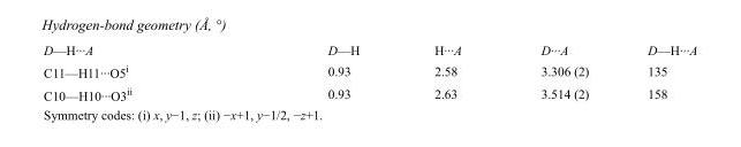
<table><tbody><tr><td>D—H···A</td><td>D—H</td><td>H···A</td><td>D···A</td><td>D—H···A</td></tr><tr><td>C11—H11···O5<sup>i</sup></td><td>0.93</td><td>2.58</td><td>3.306 (2)</td><td>135</td></tr><tr><td>C10—H10···O3<sup>ii</sup></td><td>0.93</td><td>2.63</td><td>3.514 (2)</td><td>158</td></tr></tbody></table>